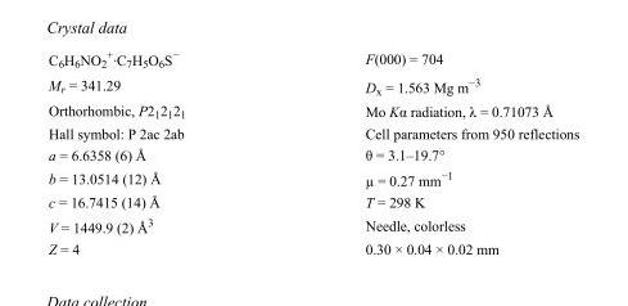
<table><tbody><tr><td>C<sub>6</sub>H<sub>6</sub>NO<sub>2</sub> <sup>+</sup>·C<sub>7</sub>H<sub>5</sub>O<sub>6</sub>S<sup>−</sup></td><td>F(000) = 704</td></tr><tr><td>M<sub>r</sub> = 341.29</td><td>D<sub>x</sub> = 1.563 Mg m<sup>−3</sup></td></tr><tr><td>Orthorhombic, P2<sub>1</sub>2<sub>1</sub>2<sub>1</sub></td><td>Mo Kα radiation, λ = 0.71073 Å</td></tr><tr><td>Hall symbol: P 2ac 2ab</td><td>Cell parameters from 950 reflections</td></tr><tr><td>a = 6.6358 (6) Å</td><td>θ = 3.1–19.7°</td></tr><tr><td>b = 13.0514 (12) Å</td><td>µ = 0.27 mm<sup>−1</sup></td></tr><tr><td>c = 16.7415 (14) Å</td><td>T = 298 K</td></tr><tr><td>V = 1449.9 (2) Å<sup>3</sup></td><td>Needle, colorless</td></tr><tr><td>Z = 4</td><td>0.30 × 0.04 × 0.02 mm</td></tr></tbody></table>